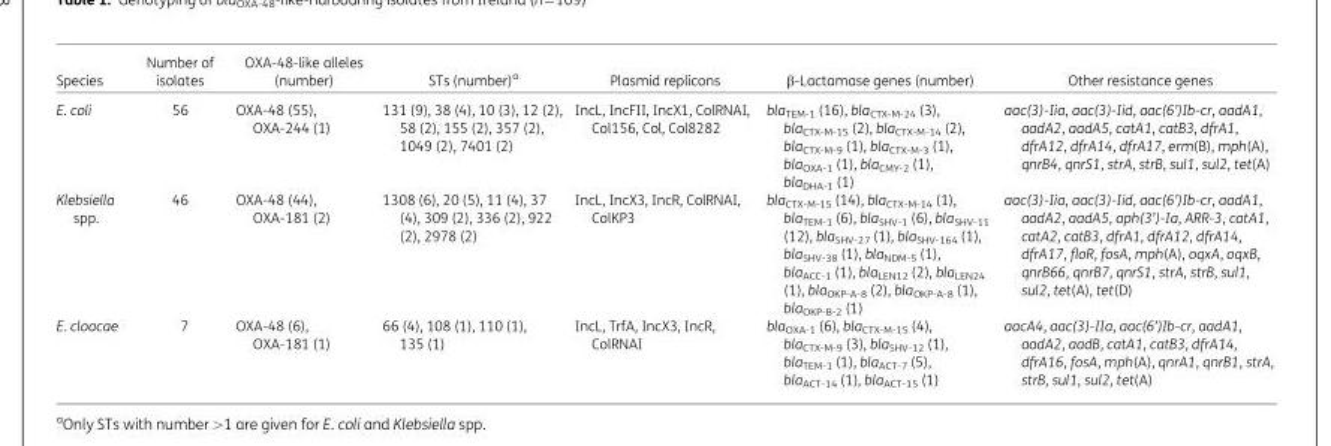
<table><thead><tr><td>Species</td><td>Number of isolates</td><td>OXA-48-like alleles (number)</td><td>STs (number)<sup>a</sup></td><td>Plasmid replicons</td><td>β-Lactamase genes (number)</td><td>Other resistance genes</td></tr></thead><tbody><tr><td>E. coli</td><td>56</td><td>OXA-48 (55), OXA-244 (1)</td><td>131 (9), 38 (4), 10 (3), 12 (2), 58 (2), 155 (2), 357 (2), 1049 (2), 7401 (2)</td><td>IncL, IncFII, IncX1, ColRNAI, Col156, Col, Col8282</td><td>bla<sub>TEM-1</sub> (16), bla<sub>CTX-M-24</sub> (3), bla<sub>CTX-M-15</sub> (2), bla<sub>CTX-M-14</sub> (2), bla<sub>CTX-M-9</sub> (1), bla<sub>CTX-M-3</sub> (1), bla<sub>OXA-1</sub> (1), bla<sub>CMY-2</sub> (1), bla<sub>DHA-1</sub> (1)</td><td>aac(3)-Iia, aac(3)-Iid, aac(6’)Ib-cr, aadA1, aadA2, aadA5, catA1, catB3, dfrA1, dfrA12, dfrA14, dfrA17, erm(B), mph(A), qnrB4, qnrS1, strA, strB, sul1, sul2, tet(A)</td></tr><tr><td>Klebsiella spp.</td><td>46</td><td>OXA-48 (44), OXA-181 (2)</td><td>1308 (6), 20 (5), 11 (4), 37 (4), 309 (2), 336 (2), 922 (2), 2978 (2)</td><td>IncL, IncX3, IncR, ColRNAI, ColKP3</td><td>bla<sub>CTX-M-15</sub> (14), bla<sub>CTX-M-14</sub> (1), bla<sub>TEM-1</sub> (6), bla<sub>SHV-1</sub> (6), bla<sub>SHV-11</sub> (12), bla<sub>SHV-27</sub> (1), bla<sub>SHV-164</sub> (1), bla<sub>SHV-38</sub> (1), bla<sub>NDM-5</sub> (1), bla<sub>ACC-1</sub> (1), bla<sub>LEN12</sub> (2), bla<sub>LEN24</sub> (1), bla<sub>OKP-A-8</sub> (2), bla<sub>OKP-A-8</sub> (1), bla<sub>OKP-B-2</sub> (1)</td><td>aac(3)-Iia, aac(3)-Iid, aac(6’)Ib-cr, aadA1, aadA2, aadA5, aph(3’)-Ia, ARR-3, catA1, catA2, catB3, dfrA1, dfrA12, dfrA14, dfrA17, floR, fosA, mph(A), oqxA, oqxB, qnrB66, qnrB7, qnrS1, strA, strB, sul1, sul2, tet(A), tet(D)</td></tr><tr><td>E. cloacae</td><td>7</td><td>OXA-48 (6), OXA-181 (1)</td><td>66 (4), 108 (1), 110 (1), 135 (1)</td><td>IncL, TrfA, IncX3, IncR, ColRNAI</td><td>bla<sub>OXA-1</sub> (6), bla<sub>CTX-M-15</sub> (4), bla<sub>CTX-M-9</sub> (3), bla<sub>SHV-12</sub> (1), bla<sub>TEM-1</sub> (1), bla<sub>ACT-7</sub> (5), bla<sub>ACT-14</sub> (1), bla<sub>ACT-15</sub> (1)</td><td>aacA4, aac(3)-IIa, aac(6’)Ib-cr, aadA1, aadA2, aadB, catA1, catB3, dfrA14, dfrA16, fosA, mph(A), qnrA1, qnrB1, strA, strB, sul1, sul2, tet(A)</td></tr></tbody></table>